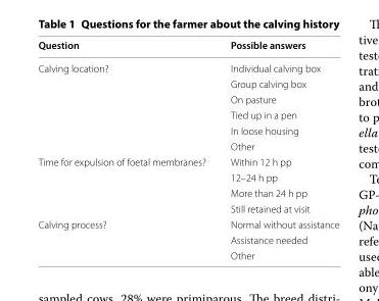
<table><thead><tr><td>Question</td><td>Possible answers</td></tr></thead><tbody><tr><td rowspan="6">Calving location?</td><td>Individual calving box</td></tr><tr><td>Group calving box</td></tr><tr><td>On pasture</td></tr><tr><td>Tied up in a pen</td></tr><tr><td>In loose housing</td></tr><tr><td>Other</td></tr><tr><td rowspan="4">Time for expulsion of foetal membranes?</td><td>Within 12 h pp</td></tr><tr><td>12–24 h pp</td></tr><tr><td>More than 24 h pp</td></tr><tr><td>Still retained at visit</td></tr><tr><td rowspan="3">Calving process?</td><td>Normal without assistance</td></tr><tr><td>Assistance needed</td></tr><tr><td>Other</td></tr></tbody></table>